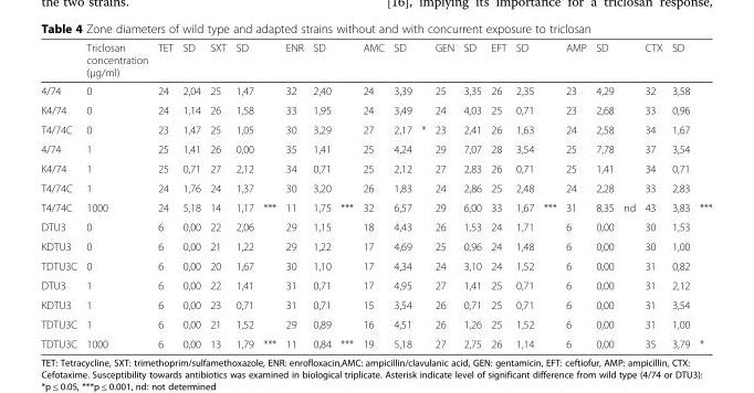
<table><thead><tr><td></td><td>Triclosan concentration (μg/ml)</td><td>TET</td><td>SD</td><td>SXT</td><td>SD</td><td></td><td>ENR</td><td>SD</td><td></td><td>AMC</td><td>SD</td><td></td><td>GEN</td><td>SD</td><td>EFT</td><td>SD</td><td></td><td>AMP</td><td>SD</td><td></td><td>CTX</td><td>SD</td><td></td></tr></thead><tbody><tr><td>4/74</td><td>0</td><td>24</td><td>2,04</td><td>25</td><td>1,47</td><td></td><td>32</td><td>2,40</td><td></td><td>24</td><td>3,39</td><td></td><td>25</td><td>3,35</td><td>26</td><td>2,35</td><td></td><td>23</td><td>4,29</td><td></td><td>32</td><td>3,58</td><td></td></tr><tr><td>K4/74</td><td>0</td><td>24</td><td>1,14</td><td>26</td><td>1,58</td><td></td><td>33</td><td>1,95</td><td></td><td>24</td><td>3,49</td><td></td><td>24</td><td>4,03</td><td>25</td><td>0,71</td><td></td><td>23</td><td>2,68</td><td></td><td>33</td><td>0,96</td><td></td></tr><tr><td>T4/74C</td><td>0</td><td>23</td><td>1,47</td><td>25</td><td>1,05</td><td></td><td>30</td><td>3,29</td><td></td><td>27</td><td>2,17</td><td>*</td><td>23</td><td>2,41</td><td>26</td><td>1,63</td><td></td><td>24</td><td>2,58</td><td></td><td>34</td><td>1,67</td><td></td></tr><tr><td>4/74</td><td>1</td><td>25</td><td>1,41</td><td>26</td><td>0,00</td><td></td><td>35</td><td>1,41</td><td></td><td>25</td><td>4,24</td><td></td><td>29</td><td>7,07</td><td>28</td><td>3,54</td><td></td><td>25</td><td>7,78</td><td></td><td>37</td><td>3,54</td><td></td></tr><tr><td>K4/74</td><td>1</td><td>25</td><td>0,71</td><td>27</td><td>2,12</td><td></td><td>34</td><td>0,71</td><td></td><td>25</td><td>2,12</td><td></td><td>27</td><td>2,83</td><td>26</td><td>0,71</td><td></td><td>25</td><td>1,41</td><td></td><td>34</td><td>0,71</td><td></td></tr><tr><td>T4/74C</td><td>1</td><td>24</td><td>1,76</td><td>24</td><td>1,37</td><td></td><td>30</td><td>3,20</td><td></td><td>26</td><td>1,83</td><td></td><td>24</td><td>2,86</td><td>25</td><td>2,48</td><td></td><td>24</td><td>2,28</td><td></td><td>33</td><td>2,83</td><td></td></tr><tr><td>T4/74C</td><td>1000</td><td>24</td><td>5,18</td><td>14</td><td>1,17</td><td>***</td><td>11</td><td>1,75</td><td>***</td><td>32</td><td>6,57</td><td></td><td>29</td><td>6,00</td><td>33</td><td>1,67</td><td>***</td><td>31</td><td>8,35</td><td>nd</td><td>43</td><td>3,83</td><td>***</td></tr><tr><td>DTU3</td><td>0</td><td>6</td><td>0,00</td><td>22</td><td>2,06</td><td></td><td>29</td><td>1,15</td><td></td><td>18</td><td>4,43</td><td></td><td>26</td><td>1,53</td><td>24</td><td>1,71</td><td></td><td>6</td><td>0,00</td><td></td><td>30</td><td>1,53</td><td></td></tr><tr><td>KDTU3</td><td>0</td><td>6</td><td>0,00</td><td>21</td><td>1,22</td><td></td><td>29</td><td>1,22</td><td></td><td>17</td><td>4,69</td><td></td><td>25</td><td>0,96</td><td>24</td><td>1,48</td><td></td><td>6</td><td>0,00</td><td></td><td>30</td><td>1,00</td><td></td></tr><tr><td>TDTU3C</td><td>0</td><td>6</td><td>0,00</td><td>20</td><td>1,67</td><td></td><td>30</td><td>1,10</td><td></td><td>17</td><td>4,34</td><td></td><td>24</td><td>3,10</td><td>24</td><td>1,52</td><td></td><td>6</td><td>0,00</td><td></td><td>31</td><td>0,82</td><td></td></tr><tr><td>DTU3</td><td>1</td><td>6</td><td>0,00</td><td>22</td><td>1,41</td><td></td><td>31</td><td>0,71</td><td></td><td>17</td><td>4,95</td><td></td><td>27</td><td>1,41</td><td>25</td><td>0,71</td><td></td><td>6</td><td>0,00</td><td></td><td>31</td><td>2,12</td><td></td></tr><tr><td>KDTU3</td><td>1</td><td>6</td><td>0,00</td><td>23</td><td>0,71</td><td></td><td>31</td><td>0,71</td><td></td><td>15</td><td>3,54</td><td></td><td>26</td><td>0,71</td><td>25</td><td>0,71</td><td></td><td>6</td><td>0,00</td><td></td><td>31</td><td>3,54</td><td></td></tr><tr><td>TDTU3C</td><td>1</td><td>6</td><td>0,00</td><td>21</td><td>1,52</td><td></td><td>29</td><td>0,89</td><td></td><td>16</td><td>4,51</td><td></td><td>26</td><td>1,26</td><td>25</td><td>1,52</td><td></td><td>6</td><td>0,00</td><td></td><td>31</td><td>1,00</td><td></td></tr><tr><td>TDTU3C</td><td>1000</td><td>6</td><td>0,00</td><td>13</td><td>1,79</td><td>***</td><td>11</td><td>0,84</td><td>***</td><td>19</td><td>5,18</td><td></td><td>27</td><td>2,75</td><td>26</td><td>1,14</td><td></td><td>6</td><td>0,00</td><td></td><td>35</td><td>3,79</td><td>*</td></tr></tbody></table>